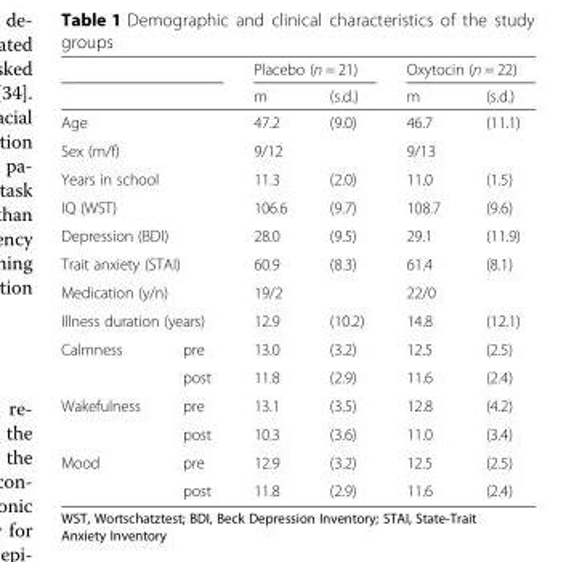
<table><thead><tr><td rowspan="2"></td><td rowspan="2"></td><td colspan="2">Placebo (n = 21)</td><td colspan="2">Oxytocin (n = 22)</td></tr><tr><td>m</td><td>(s.d.)</td><td>m</td><td>(s.d.)</td></tr></thead><tbody><tr><td colspan="2">Age</td><td>47.2</td><td>(9.0)</td><td>46.7</td><td>(11.1)</td></tr><tr><td colspan="2">Sex (m/f)</td><td>9/12</td><td></td><td>9/13</td><td></td></tr><tr><td colspan="2">Years in school</td><td>11.3</td><td>(2.0)</td><td>11.0</td><td>(1.5)</td></tr><tr><td colspan="2">IQ (WST)</td><td>106.6</td><td>(9.7)</td><td>108.7</td><td>(9.6)</td></tr><tr><td colspan="2">Depression (BDI)</td><td>28.0</td><td>(9.5)</td><td>29.1</td><td>(11.9)</td></tr><tr><td colspan="2">Trait anxiety (STAI)</td><td>60.9</td><td>(8.3)</td><td>61.4</td><td>(8.1)</td></tr><tr><td colspan="2">Medication (y/n)</td><td>19/2</td><td></td><td>22/0</td><td></td></tr><tr><td colspan="2">Illness duration (years)</td><td>12.9</td><td>(10.2)</td><td>14.8</td><td>(12.1)</td></tr><tr><td rowspan="2">Calmness</td><td>pre</td><td>13.0</td><td>(3.2)</td><td>12.5</td><td>(2.5)</td></tr><tr><td>post</td><td>11.8</td><td>(2.9)</td><td>11.6</td><td>(2.4)</td></tr><tr><td rowspan="2">Wakefulness</td><td>pre</td><td>13.1</td><td>(3.5)</td><td>12.8</td><td>(4.2)</td></tr><tr><td>post</td><td>10.3</td><td>(3.6)</td><td>11.0</td><td>(3.4)</td></tr><tr><td rowspan="2">Mood</td><td>pre</td><td>12.9</td><td>(3.2)</td><td>12.5</td><td>(2.5)</td></tr><tr><td>post</td><td>11.8</td><td>(2.9)</td><td>11.6</td><td>(2.4)</td></tr></tbody></table>